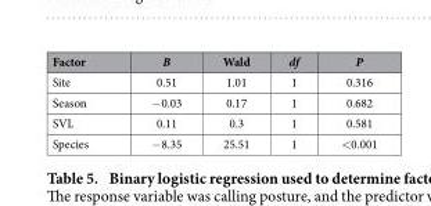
<table><thead><tr><td>Factor</td><td>B</td><td>Wald</td><td>df</td><td>P</td></tr></thead><tbody><tr><td>Site</td><td>0.51</td><td>1.01</td><td>1</td><td>0.316</td></tr><tr><td>Season</td><td>− 0.03</td><td>0.17</td><td>1</td><td>0.682</td></tr><tr><td>SVL</td><td>0.11</td><td>0.3</td><td>1</td><td>0.581</td></tr><tr><td>Species</td><td>− 8.35</td><td>25.51</td><td>1</td><td>&lt; 0.001</td></tr></tbody></table>